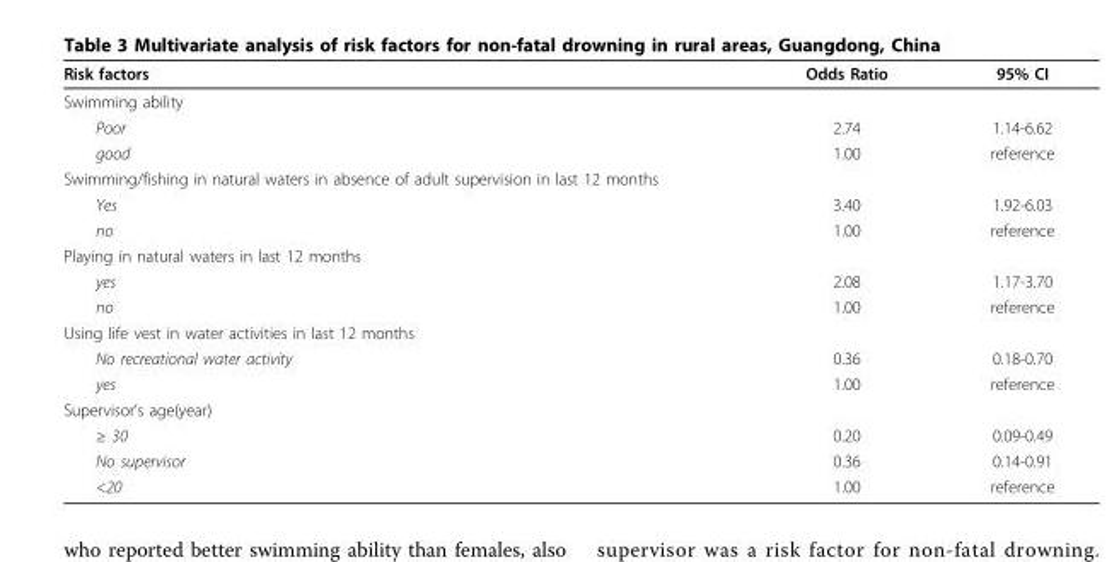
<table><thead><tr><td>Risk factors</td><td>Odds Ratio</td><td>95% CI</td></tr></thead><tbody><tr><td colspan="3">Swimming ability</td></tr><tr><td>Poor</td><td>2.74</td><td>1.14-6.62</td></tr><tr><td>good</td><td>1.00</td><td>reference</td></tr><tr><td colspan="3">Swimming/fishing in natural waters in absence of adult supervision in last 12 months</td></tr><tr><td>Yes</td><td>3.40</td><td>1.92-6.03</td></tr><tr><td>no</td><td>1.00</td><td>reference</td></tr><tr><td colspan="3">Playing in natural waters in last 12 months</td></tr><tr><td>yes</td><td>2.08</td><td>1.17-3.70</td></tr><tr><td>no</td><td>1.00</td><td>reference</td></tr><tr><td colspan="3">Using life vest in water activities in last 12 months</td></tr><tr><td>No recreational water activity</td><td>0.36</td><td>0.18-0.70</td></tr><tr><td>yes</td><td>1.00</td><td>reference</td></tr><tr><td colspan="3">Supervisor’s age(year)</td></tr><tr><td>≥ 30</td><td>0.20</td><td>0.09-0.49</td></tr><tr><td>No supervisor</td><td>0.36</td><td>0.14-0.91</td></tr><tr><td>&lt;20</td><td>1.00</td><td>reference</td></tr></tbody></table>